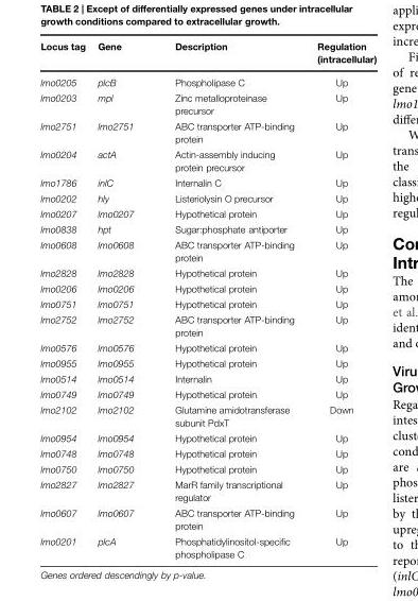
<table><thead><tr><td>Locus tag</td><td>Gene</td><td>Description</td><td>Regulation (intracellular)</td></tr></thead><tbody><tr><td>lmo0205</td><td>plcB</td><td>Phospholipase C</td><td>Up</td></tr><tr><td>lmo0203</td><td>mpl</td><td>Zinc metalloproteinase precursor</td><td>Up</td></tr><tr><td>lmo2751</td><td>lmo2751</td><td>ABC transporter ATP-binding protein</td><td>Up</td></tr><tr><td>lmo0204</td><td>actA</td><td>Actin-assembly inducing protein precursor</td><td>Up</td></tr><tr><td>lmo1786</td><td>inlC</td><td>Internalin C</td><td>Up</td></tr><tr><td>lmo0202</td><td>hly</td><td>Listeriolysin O precursor</td><td>Up</td></tr><tr><td>lmo0207</td><td>lmo0207</td><td>Hypothetical protein</td><td>Up</td></tr><tr><td>lmo0838</td><td>hpt</td><td>Sugar:phosphate antiporter</td><td>Up</td></tr><tr><td>lmo0608</td><td>lmo0608</td><td>ABC transporter ATP-binding protein</td><td>Up</td></tr><tr><td>lmo2828</td><td>lmo2828</td><td>Hypothetical protein</td><td>Up</td></tr><tr><td>lmo0206</td><td>lmo0206</td><td>Hypothetical protein</td><td>Up</td></tr><tr><td>lmo0751</td><td>lmo0751</td><td>Hypothetical protein</td><td>Up</td></tr><tr><td>lmo2752</td><td>lmo2752</td><td>ABC transporter ATP-binding protein</td><td>Up</td></tr><tr><td>lmo0576</td><td>lmo0576</td><td>Hypothetical protein</td><td>Up</td></tr><tr><td>lmo0955</td><td>lmo0955</td><td>Hypothetical protein</td><td>Up</td></tr><tr><td>lmo0514</td><td>lmo0514</td><td>Internalin</td><td>Up</td></tr><tr><td>lmo0749</td><td>lmo0749</td><td>Hypothetical protein</td><td>Up</td></tr><tr><td>lmo2102</td><td>lmo2102</td><td>Glutamine amidotransferase subunit PdxT</td><td>Down</td></tr><tr><td>lmo0954</td><td>lmo0954</td><td>Hypothetical protein</td><td>Up</td></tr><tr><td>lmo0748</td><td>lmo0748</td><td>Hypothetical protein</td><td>Up</td></tr><tr><td>lmo0750</td><td>lmo0750</td><td>Hypothetical protein</td><td>Up</td></tr><tr><td>lmo2827</td><td>lmo2827</td><td>MarR family transcriptional regulator</td><td>Up</td></tr><tr><td>lmo0607</td><td>lmo0607</td><td>ABC transporter ATP-binding protein</td><td>Up</td></tr><tr><td>lmo0201</td><td>plcA</td><td>Phosphatidylinositol-specific phospholipase C</td><td>Up</td></tr></tbody></table>